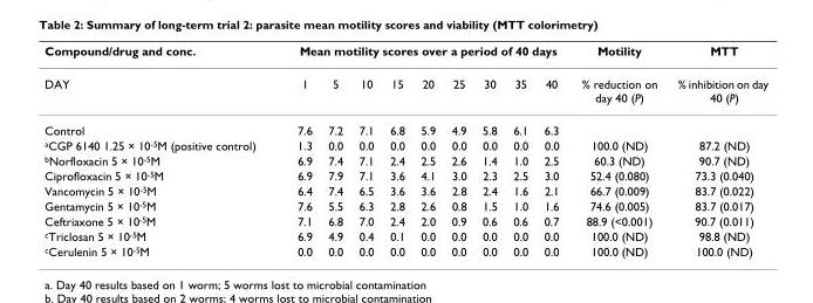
<table><thead><tr><td rowspan="2">Compound/drug and conc. DAY</td><td colspan="9">Mean motility scores over a period of 40 days</td><td rowspan="2">Motility % reduction on day 40 (P)</td><td rowspan="2">MTT % inhibition on day 40 (P)</td></tr><tr><td>1</td><td>5</td><td>10</td><td>15</td><td>20</td><td>25</td><td>30</td><td>35</td><td>40</td></tr></thead><tbody><tr><td>Control</td><td>7.6</td><td>7.2</td><td>7.1</td><td>6.8</td><td>5.9</td><td>4.9</td><td>5.8</td><td>6.1</td><td>6.3</td><td></td><td></td></tr><tr><td><sup>a</sup>CGP 6140 1.25 × 10<sup>-5</sup>M (positive control)</td><td>1.3</td><td>0.0</td><td>0.0</td><td>0.0</td><td>0.0</td><td>0.0</td><td>0.0</td><td>0.0</td><td>0.0</td><td>100.0 (ND)</td><td>87.2 (ND)</td></tr><tr><td><sup>b</sup>Norfloxacin 5 × 10<sup>-5</sup>M</td><td>6.9</td><td>7.4</td><td>7.1</td><td>2.4</td><td>2.5</td><td>2.6</td><td>1.4</td><td>1.0</td><td>2.5</td><td>60.3 (ND)</td><td>90.7 (ND)</td></tr><tr><td>Ciprofloxacin 5 × 10<sup>-5</sup>M</td><td>6.9</td><td>7.9</td><td>7.1</td><td>3.6</td><td>4.1</td><td>3.0</td><td>2.3</td><td>2.5</td><td>3.0</td><td>52.4 (0.080)</td><td>73.3 (0.040)</td></tr><tr><td>Vancomycin 5 × 10<sup>-5</sup>M</td><td>6.4</td><td>7.4</td><td>6.5</td><td>3.6</td><td>3.6</td><td>2.8</td><td>2.4</td><td>1.6</td><td>2.1</td><td>66.7 (0.009)</td><td>83.7 (0.022)</td></tr><tr><td>Gentamycin 5 × 10<sup>-5</sup>M</td><td>7.6</td><td>5.5</td><td>6.3</td><td>2.8</td><td>2.6</td><td>0.8</td><td>1.5</td><td>1.0</td><td>1.6</td><td>74.6 (0.005)</td><td>83.7 (0.017)</td></tr><tr><td>Ceftriaxone 5 × 10<sup>-5</sup>M</td><td>7.1</td><td>6.8</td><td>7.0</td><td>2.4</td><td>2.0</td><td>0.9</td><td>0.6</td><td>0.6</td><td>0.7</td><td>88.9 (&lt;0.001)</td><td>90.7 (0.011)</td></tr><tr><td><sup>c</sup>Triclosan 5 × 10<sup>-5</sup>M</td><td>6.9</td><td>4.9</td><td>0.4</td><td>0.1</td><td>0.0</td><td>0.0</td><td>0.0</td><td>0.0</td><td>0.0</td><td>100.0 (ND)</td><td>98.8 (ND)</td></tr><tr><td><sup>c</sup>Cerulenin 5 × 10<sup>-5</sup>M</td><td>0.0</td><td>0.0</td><td>0.0</td><td>0.0</td><td>0.0</td><td>0.0</td><td>0.0</td><td>0.0</td><td>0.0</td><td>100.0 (ND)</td><td>100.0 (ND)</td></tr></tbody></table>